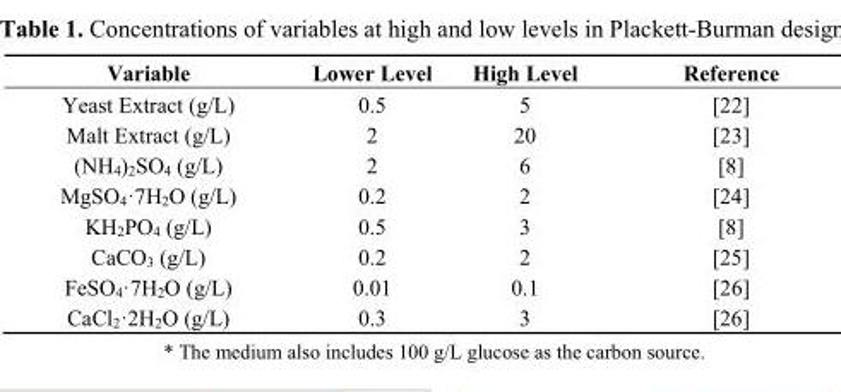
<table><thead><tr><td>Variable</td><td>Lower Level</td><td>High Level</td><td>Reference</td></tr></thead><tbody><tr><td>Yeast Extract (g/L)</td><td>0.5</td><td>5</td><td>[22]</td></tr><tr><td>Malt Extract (g/L)</td><td>2</td><td>20</td><td>[23]</td></tr><tr><td>(NH<sub>4</sub>)<sub>2</sub>SO<sub>4</sub> (g/L)</td><td>2</td><td>6</td><td>[8]</td></tr><tr><td>MgSO<sub>4</sub>·7H<sub>2</sub>O (g/L)</td><td>0.2</td><td>2</td><td>[24]</td></tr><tr><td>KH<sub>2</sub>PO<sub>4</sub> (g/L)</td><td>0.5</td><td>3</td><td>[8]</td></tr><tr><td>CaCO<sub>3</sub> (g/L)</td><td>0.2</td><td>2</td><td>[25]</td></tr><tr><td>FeSO<sub>4</sub>·7H<sub>2</sub>O (g/L)</td><td>0.01</td><td>0.1</td><td>[26]</td></tr><tr><td>CaCl<sub>2</sub>·2H<sub>2</sub>O (g/L)</td><td>0.3</td><td>3</td><td>[26]</td></tr></tbody></table>